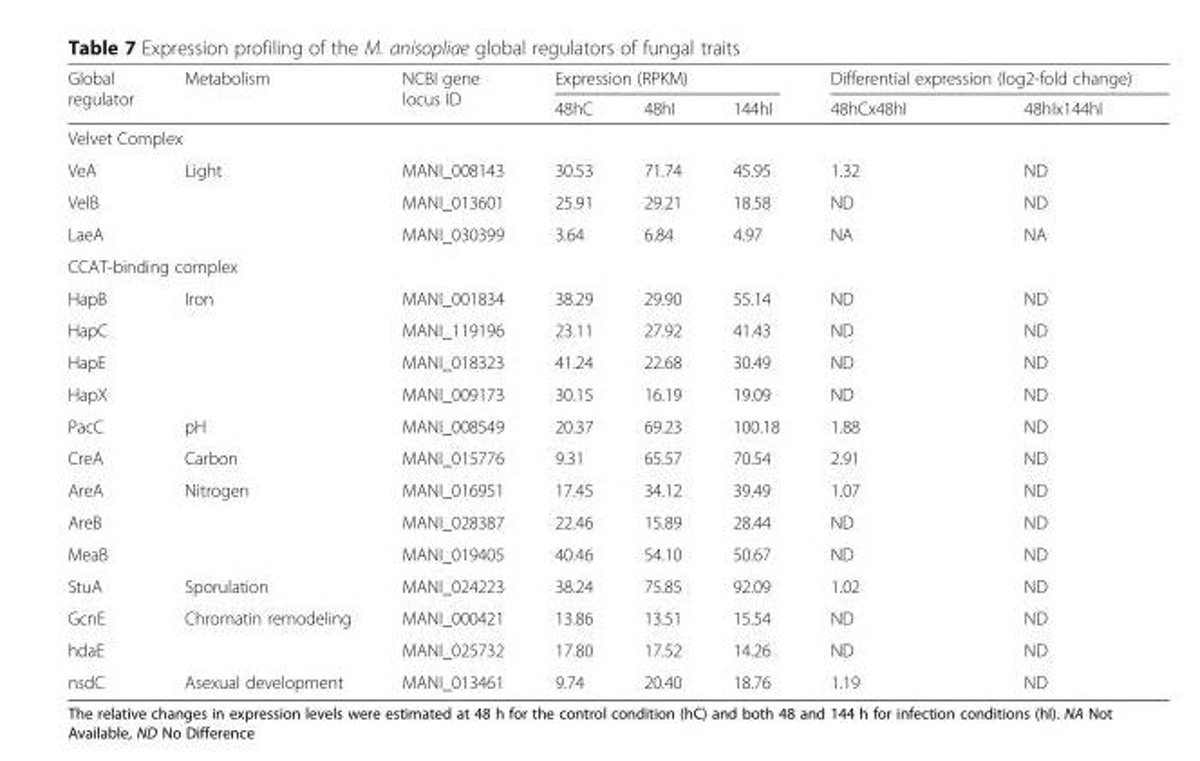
<table><thead><tr><td rowspan="2">Global regulator</td><td rowspan="2">Metabolism</td><td rowspan="2">NCBI gene locus ID</td><td colspan="3">Expression (RPKM)</td><td colspan="2">Differential expression (log2-fold change)</td></tr><tr><td>48hC</td><td>48hI</td><td>144hI</td><td>48hCx48hI</td><td>48hIx144hI</td></tr></thead><tbody><tr><td colspan="8">Velvet Complex</td></tr><tr><td>VeA</td><td>Light</td><td>MANI_008143</td><td>30.53</td><td>71.74</td><td>45.95</td><td>1.32</td><td>ND</td></tr><tr><td>VelB</td><td></td><td>MANI_013601</td><td>25.91</td><td>29.21</td><td>18.58</td><td>ND</td><td>ND</td></tr><tr><td>LaeA</td><td></td><td>MANI_030399</td><td>3.64</td><td>6.84</td><td>4.97</td><td>NA</td><td>NA</td></tr><tr><td colspan="8">CCAT-binding complex</td></tr><tr><td>HapB</td><td>Iron</td><td>MANI_001834</td><td>38.29</td><td>29.90</td><td>55.14</td><td>ND</td><td>ND</td></tr><tr><td>HapC</td><td></td><td>MANI_119196</td><td>23.11</td><td>27.92</td><td>41.43</td><td>ND</td><td>ND</td></tr><tr><td>HapE</td><td></td><td>MANI_018323</td><td>41.24</td><td>22.68</td><td>30.49</td><td>ND</td><td>ND</td></tr><tr><td>HapX</td><td></td><td>MANI_009173</td><td>30.15</td><td>16.19</td><td>19.09</td><td>ND</td><td>ND</td></tr><tr><td>PacC</td><td>pH</td><td>MANI_008549</td><td>20.37</td><td>69.23</td><td>100.18</td><td>1.88</td><td>ND</td></tr><tr><td>CreA</td><td>Carbon</td><td>MANI_015776</td><td>9.31</td><td>65.57</td><td>70.54</td><td>2.91</td><td>ND</td></tr><tr><td>AreA</td><td>Nitrogen</td><td>MANI_016951</td><td>17.45</td><td>34.12</td><td>39.49</td><td>1.07</td><td>ND</td></tr><tr><td>AreB</td><td></td><td>MANI_028387</td><td>22.46</td><td>15.89</td><td>28.44</td><td>ND</td><td>ND</td></tr><tr><td>MeaB</td><td></td><td>MANI_019405</td><td>40.46</td><td>54.10</td><td>50.67</td><td>ND</td><td>ND</td></tr><tr><td>StuA</td><td>Sporulation</td><td>MANI_024223</td><td>38.24</td><td>75.85</td><td>92.09</td><td>1.02</td><td>ND</td></tr><tr><td>GcnE</td><td>Chromatin remodeling</td><td>MANI_000421</td><td>13.86</td><td>13.51</td><td>15.54</td><td>ND</td><td>ND</td></tr><tr><td>hdaE</td><td></td><td>MANI_025732</td><td>17.80</td><td>17.52</td><td>14.26</td><td>ND</td><td>ND</td></tr><tr><td>nsdC</td><td>Asexual development</td><td>MANI_013461</td><td>9.74</td><td>20.40</td><td>18.76</td><td>1.19</td><td>ND</td></tr></tbody></table>